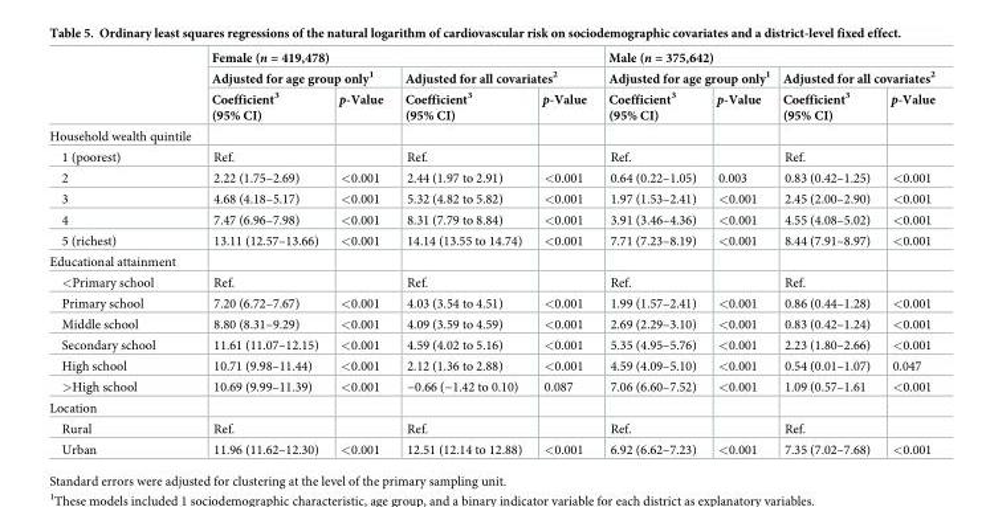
<table><thead><tr><td rowspan="3"></td><td colspan="4">Female (n = 419,478)</td><td colspan="4">Male (n = 375,642)</td></tr><tr><td colspan="2">Adjusted for age group only<sup>1</sup></td><td colspan="2">Adjusted for all covariates<sup>2</sup></td><td colspan="2">Adjusted for age group only<sup>1</sup></td><td colspan="2">Adjusted for all covariates<sup>2</sup></td></tr><tr><td>Coefficient<sup>3</sup> (95% CI)</td><td>p-Value</td><td>Coefficient<sup>3</sup> (95% CI)</td><td>p-Value</td><td>Coefficient<sup>3</sup> (95% CI)</td><td>p-Value</td><td>Coefficient<sup>3</sup> (95% CI)</td><td>p-Value</td></tr></thead><tbody><tr><td colspan="9">Household wealth quintile</td></tr><tr><td>1 (poorest)</td><td>Ref.</td><td></td><td>Ref.</td><td></td><td>Ref.</td><td></td><td>Ref.</td><td></td></tr><tr><td>2</td><td>2.22 (1.75–2.69)</td><td>&lt;0.001</td><td>2.44 (1.97 to 2.91)</td><td>&lt;0.001</td><td>0.64 (0.22–1.05)</td><td>0.003</td><td>0.83 (0.42–1.25)</td><td>&lt;0.001</td></tr><tr><td>3</td><td>4.68 (4.18–5.17)</td><td>&lt;0.001</td><td>5.32 (4.82 to 5.82)</td><td>&lt;0.001</td><td>1.97 (1.53–2.41)</td><td>&lt;0.001</td><td>2.45 (2.00–2.90)</td><td>&lt;0.001</td></tr><tr><td>4</td><td>7.47 (6.96–7.98)</td><td>&lt;0.001</td><td>8.31 (7.79 to 8.84)</td><td>&lt;0.001</td><td>3.91 (3.46–4.36)</td><td>&lt;0.001</td><td>4.55 (4.08–5.02)</td><td>&lt;0.001</td></tr><tr><td>5 (richest)</td><td>13.11 (12.57–13.66)</td><td>&lt;0.001</td><td>14.14 (13.55 to 14.74)</td><td>&lt;0.001</td><td>7.71 (7.23–8.19)</td><td>&lt;0.001</td><td>8.44 (7.91–8.97)</td><td>&lt;0.001</td></tr><tr><td colspan="9">Educational attainment</td></tr><tr><td>&lt;Primary school</td><td>Ref.</td><td></td><td>Ref.</td><td></td><td>Ref.</td><td></td><td>Ref.</td><td></td></tr><tr><td>Primary school</td><td>7.20 (6.72–7.67)</td><td>&lt;0.001</td><td>4.03 (3.54 to 4.51)</td><td>&lt;0.001</td><td>1.99 (1.57–2.41)</td><td>&lt;0.001</td><td>0.86 (0.44–1.28)</td><td>&lt;0.001</td></tr><tr><td>Middle school</td><td>8.80 (8.31–9.29)</td><td>&lt;0.001</td><td>4.09 (3.59 to 4.59)</td><td>&lt;0.001</td><td>2.69 (2.29–3.10)</td><td>&lt;0.001</td><td>0.83 (0.42–1.24)</td><td>&lt;0.001</td></tr><tr><td>Secondary school</td><td>11.61 (11.07–12.15)</td><td>&lt;0.001</td><td>4.59 (4.02 to 5.16)</td><td>&lt;0.001</td><td>5.35 (4.95–5.76)</td><td>&lt;0.001</td><td>2.23 (1.80–2.66)</td><td>&lt;0.001</td></tr><tr><td>High school</td><td>10.71 (9.98–11.44)</td><td>&lt;0.001</td><td>2.12 (1.36 to 2.88)</td><td>&lt;0.001</td><td>4.59 (4.09–5.10)</td><td>&lt;0.001</td><td>0.54 (0.01–1.07)</td><td>0.047</td></tr><tr><td>&gt;High school</td><td>10.69 (9.99–11.39)</td><td>&lt;0.001</td><td>−0.66 (−1.42 to 0.10)</td><td>0.087</td><td>7.06 (6.60–7.52)</td><td>&lt;0.001</td><td>1.09 (0.57–1.61</td><td>&lt;0.001</td></tr><tr><td colspan="9">Location</td></tr><tr><td>Rural</td><td>Ref.</td><td></td><td>Ref.</td><td></td><td>Ref.</td><td></td><td>Ref.</td><td></td></tr><tr><td>Urban</td><td>11.96 (11.62–12.30)</td><td>&lt;0.001</td><td>12.51 (12.14 to 12.88)</td><td>&lt;0.001</td><td>6.92 (6.62–7.23)</td><td>&lt;0.001</td><td>7.35 (7.02–7.68)</td><td>&lt;0.001</td></tr></tbody></table>